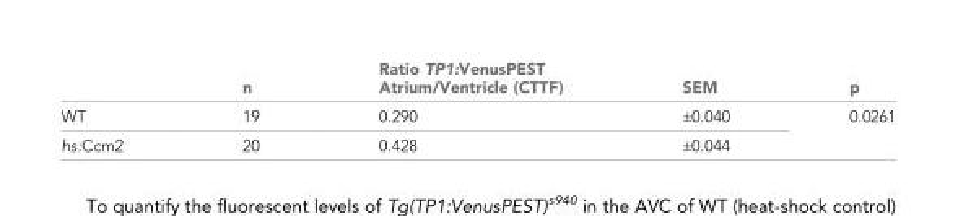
<table><thead><tr><td></td><td>n</td><td>Ratio TP1:VenusPEST Atrium/Ventricle (CTTF)</td><td>SEM</td><td>p</td></tr></thead><tbody><tr><td>WT</td><td>19</td><td>0.290</td><td>±0.040</td><td rowspan="2">0.0261</td></tr><tr><td>hs:Ccm2</td><td>20</td><td>0.428</td><td>±0.044</td></tr></tbody></table>